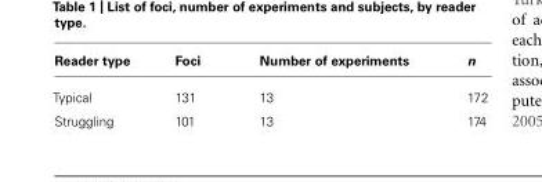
<table><thead><tr><td>Reader type</td><td>Foci</td><td>Number of experiments</td><td>n</td></tr></thead><tbody><tr><td>Typical</td><td>131</td><td>13</td><td>172</td></tr><tr><td>Struggling</td><td>101</td><td>13</td><td>174</td></tr></tbody></table>